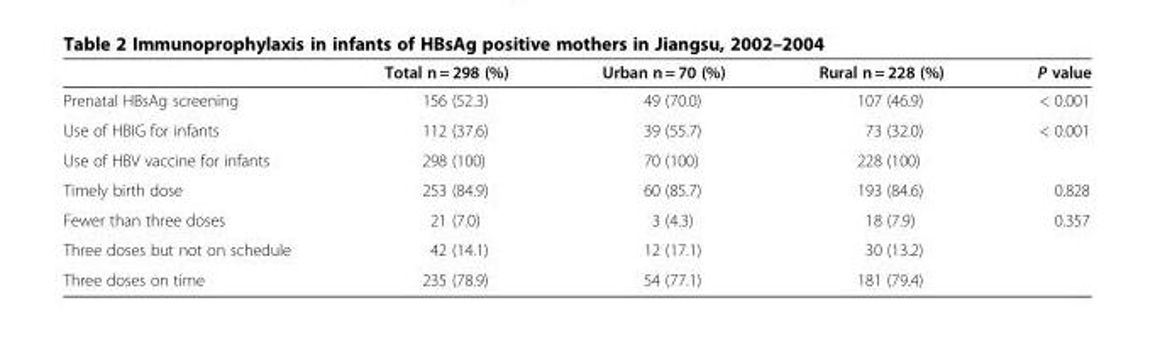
<table><thead><tr><td></td><td>Total n = 298 (%)</td><td>Urban n = 70 (%)</td><td>Rural n = 228 (%)</td><td>P value</td></tr></thead><tbody><tr><td>Prenatal HBsAg screening</td><td>156 (52.3)</td><td>49 (70.0)</td><td>107 (46.9)</td><td>&lt; 0.001</td></tr><tr><td>Use of HBIG for infants</td><td>112 (37.6)</td><td>39 (55.7)</td><td>73 (32.0)</td><td>&lt; 0.001</td></tr><tr><td>Use of HBV vaccine for infants</td><td>298 (100)</td><td>70 (100)</td><td>228 (100)</td><td></td></tr><tr><td>Timely birth dose</td><td>253 (84.9)</td><td>60 (85.7)</td><td>193 (84.6)</td><td>0.828</td></tr><tr><td>Fewer than three doses</td><td>21 (7.0)</td><td>3 (4.3)</td><td>18 (7.9)</td><td>0.357</td></tr><tr><td>Three doses but not on schedule</td><td>42 (14.1)</td><td>12 (17.1)</td><td>30 (13.2)</td><td></td></tr><tr><td>Three doses on time</td><td>235 (78.9)</td><td>54 (77.1)</td><td>181 (79.4)</td><td></td></tr></tbody></table>